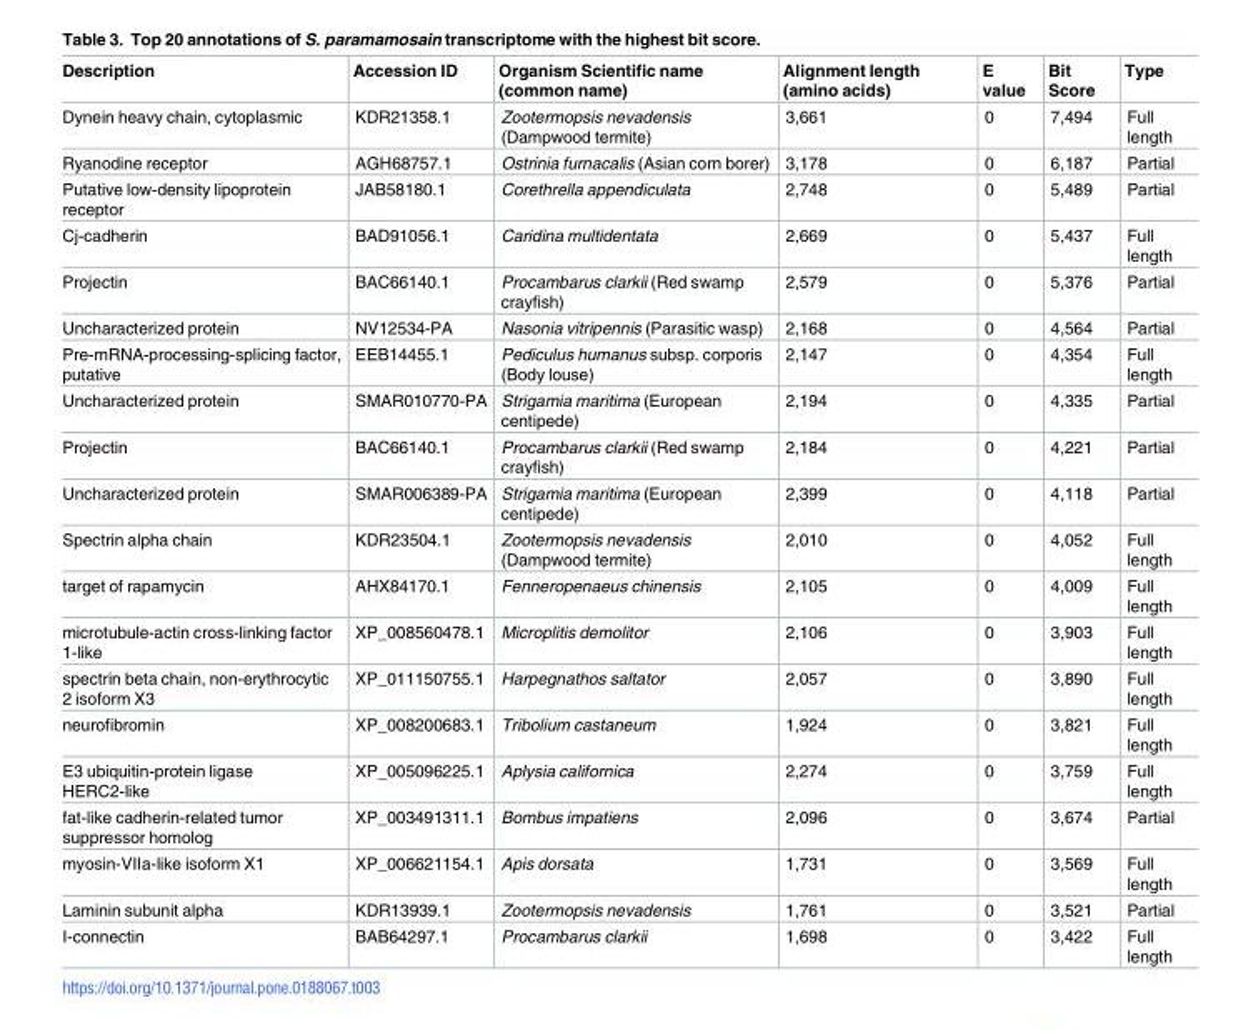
<table><thead><tr><td>Description</td><td>Accession ID</td><td>Organism Scientific name (common name)</td><td>Alignment length (amino acids)</td><td>E value</td><td>Bit Score</td><td>Type</td></tr></thead><tbody><tr><td>Dynein heavy chain, cytoplasmic</td><td>KDR21358.1</td><td>Zootermopsis nevadensis (Dampwood termite)</td><td>3,661</td><td>0</td><td>7,494</td><td>Full length</td></tr><tr><td>Ryanodine receptor</td><td>AGH68757.1</td><td>Ostrinia furnacalis (Asian corn borer)</td><td>3,178</td><td>0</td><td>6,187</td><td>Partial</td></tr><tr><td>Putative low-density lipoprotein receptor</td><td>JAB58180.1</td><td>Corethrella appendiculata</td><td>2,748</td><td>0</td><td>5,489</td><td>Partial</td></tr><tr><td>Cj-cadherin</td><td>BAD91056.1</td><td>Caridina multidentata</td><td>2,669</td><td>0</td><td>5,437</td><td>Full length</td></tr><tr><td>Projectin</td><td>BAC66140.1</td><td>Procambarus clarkii (Red swamp crayfish)</td><td>2,579</td><td>0</td><td>5,376</td><td>Partial</td></tr><tr><td>Uncharacterized protein</td><td>NV12534-PA</td><td>Nasonia vitripennis (Parasitic wasp)</td><td>2,168</td><td>0</td><td>4,564</td><td>Partial</td></tr><tr><td>Pre-mRNA-processing-splicing factor, putative</td><td>EEB14455.1</td><td>Pediculus humanus subsp. corporis (Body louse)</td><td>2,147</td><td>0</td><td>4,354</td><td>Full length</td></tr><tr><td>Uncharacterized protein</td><td>SMAR010770-PA</td><td>Strigamia maritima (European centipede)</td><td>2,194</td><td>0</td><td>4,335</td><td>Partial</td></tr><tr><td>Projectin</td><td>BAC66140.1</td><td>Procambarus clarkii (Red swamp crayfish)</td><td>2,184</td><td>0</td><td>4,221</td><td>Partial</td></tr><tr><td>Uncharacterized protein</td><td>SMAR006389-PA</td><td>Strigamia maritima (European centipede)</td><td>2,399</td><td>0</td><td>4,118</td><td>Partial</td></tr><tr><td>Spectrin alpha chain</td><td>KDR23504.1</td><td>Zootermopsis nevadensis (Dampwood termite)</td><td>2,010</td><td>0</td><td>4,052</td><td>Full length</td></tr><tr><td>target of rapamycin</td><td>AHX84170.1</td><td>Fenneropenaeus chinensis</td><td>2,105</td><td>0</td><td>4,009</td><td>Full length</td></tr><tr><td>microtubule-actin cross-linking factor 1-like</td><td>XP_008560478.1</td><td>Microplitis demolitor</td><td>2,106</td><td>0</td><td>3,903</td><td>Full length</td></tr><tr><td>spectrin beta chain, non-erythrocytic 2 isoform X3</td><td>XP_011150755.1</td><td>Harpegnathos saltator</td><td>2,057</td><td>0</td><td>3,890</td><td>Full length</td></tr><tr><td>neurofibromin</td><td>XP_008200683.1</td><td>Tribolium castaneum</td><td>1,924</td><td>0</td><td>3,821</td><td>Full length</td></tr><tr><td>E3 ubiquitin-protein ligase HERC2-like</td><td>XP_005096225.1</td><td>Aplysia californica</td><td>2,274</td><td>0</td><td>3,759</td><td>Full length</td></tr><tr><td>fat-like cadherin-related tumor suppressor homolog</td><td>XP_003491311.1</td><td>Bombus impatiens</td><td>2,096</td><td>0</td><td>3,674</td><td>Partial</td></tr><tr><td>myosin-VIIa-like isoform X1</td><td>XP_006621154.1</td><td>Apis dorsata</td><td>1,731</td><td>0</td><td>3,569</td><td>Full length</td></tr><tr><td>Laminin subunit alpha</td><td>KDR13939.1</td><td>Zootermopsis nevadensis</td><td>1,761</td><td>0</td><td>3,521</td><td>Partial</td></tr><tr><td>I-connectin</td><td>BAB64297.1</td><td>Procambarus clarkii</td><td>1,698</td><td>0</td><td>3,422</td><td>Full length</td></tr></tbody></table>